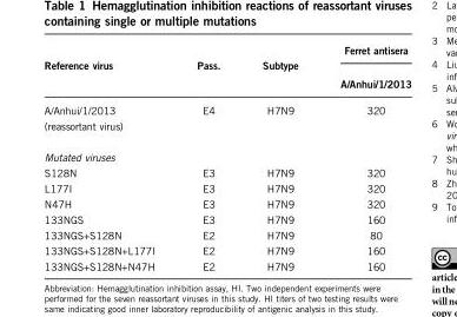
<table><thead><tr><td rowspan="2">Reference virus</td><td rowspan="2">Pass.</td><td rowspan="2">Subtype</td><td rowspan="2">Ferret antisera A/Anhui/1/2013</td></tr><tr></tr></thead><tbody><tr><td>A/Anhui/1/2013 (reassortant virus)</td><td>E4</td><td>H7N9</td><td>320</td></tr><tr><td colspan="4">Mutated viruses</td></tr><tr><td>S128N</td><td>E3</td><td>H7N9</td><td>320</td></tr><tr><td>L177I</td><td>E3</td><td>H7N9</td><td>320</td></tr><tr><td>N47H</td><td>E3</td><td>H7N9</td><td>320</td></tr><tr><td>133NGS</td><td>E3</td><td>H7N9</td><td>160</td></tr><tr><td>133NGS+S128N</td><td>E2</td><td>H7N9</td><td>80</td></tr><tr><td>133NGS+S128N+L177I</td><td>E2</td><td>H7N9</td><td>160</td></tr><tr><td>133NGS+S128N+N47H</td><td>E2</td><td>H7N9</td><td>160</td></tr></tbody></table>